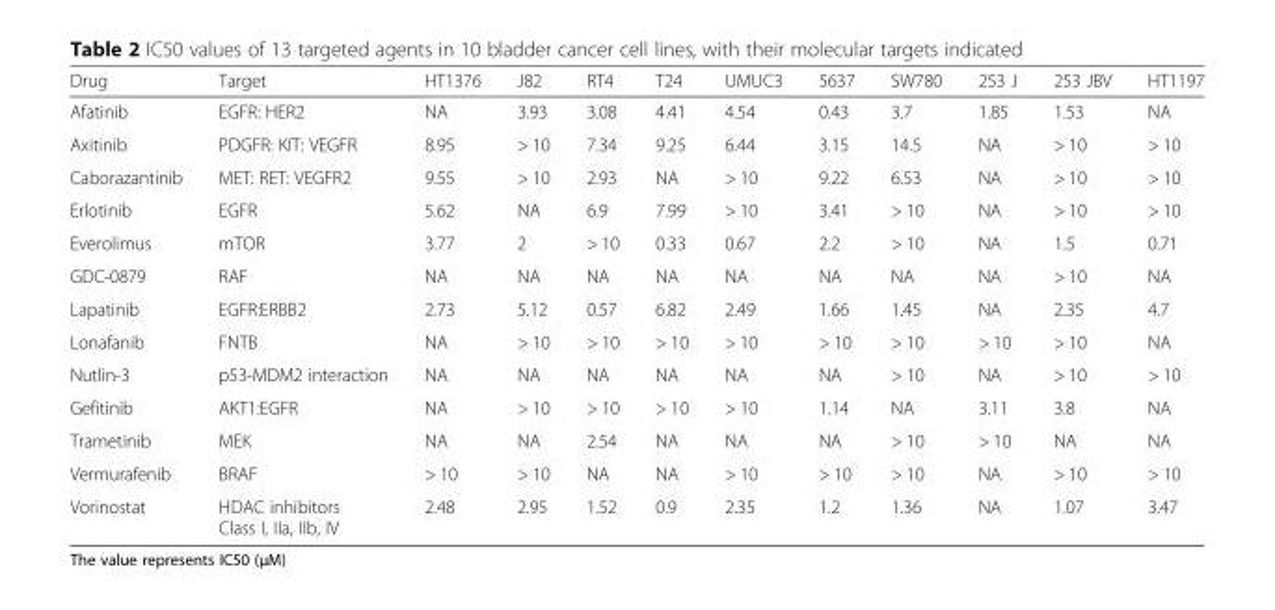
<table><thead><tr><td>Drug</td><td>Target</td><td>HT1376</td><td>J82</td><td>RT4</td><td>T24</td><td>UMUC3</td><td>5637</td><td>SW780</td><td>253 J</td><td>253 JBV</td><td>HT1197</td></tr></thead><tbody><tr><td>Afatinib</td><td>EGFR: HER2</td><td>NA</td><td>3.93</td><td>3.08</td><td>4.41</td><td>4.54</td><td>0.43</td><td>3.7</td><td>1.85</td><td>1.53</td><td>NA</td></tr><tr><td>Axitinib</td><td>PDGFR: KIT: VEGFR</td><td>8.95</td><td>&gt; 10</td><td>7.34</td><td>9.25</td><td>6.44</td><td>3.15</td><td>14.5</td><td>NA</td><td>&gt; 10</td><td>&gt; 10</td></tr><tr><td>Caborazantinib</td><td>MET: RET: VEGFR2</td><td>9.55</td><td>&gt; 10</td><td>2.93</td><td>NA</td><td>&gt; 10</td><td>9.22</td><td>6.53</td><td>NA</td><td>&gt; 10</td><td>&gt; 10</td></tr><tr><td>Erlotinib</td><td>EGFR</td><td>5.62</td><td>NA</td><td>6.9</td><td>7.99</td><td>&gt; 10</td><td>3.41</td><td>&gt; 10</td><td>NA</td><td>&gt; 10</td><td>&gt; 10</td></tr><tr><td>Everolimus</td><td>mTOR</td><td>3.77</td><td>2</td><td>&gt; 10</td><td>0.33</td><td>0.67</td><td>2.2</td><td>&gt; 10</td><td>NA</td><td>1.5</td><td>0.71</td></tr><tr><td>GDC-0879</td><td>RAF</td><td>NA</td><td>NA</td><td>NA</td><td>NA</td><td>NA</td><td>NA</td><td>NA</td><td>NA</td><td>&gt; 10</td><td>NA</td></tr><tr><td>Lapatinib</td><td>EGFR:ERBB2</td><td>2.73</td><td>5.12</td><td>0.57</td><td>6.82</td><td>2.49</td><td>1.66</td><td>1.45</td><td>NA</td><td>2.35</td><td>4.7</td></tr><tr><td>Lonafanib</td><td>FNTB</td><td>NA</td><td>&gt; 10</td><td>&gt; 10</td><td>&gt; 10</td><td>&gt; 10</td><td>&gt; 10</td><td>&gt; 10</td><td>&gt; 10</td><td>&gt; 10</td><td>NA</td></tr><tr><td>Nutlin-3</td><td>p53-MDM2 interaction</td><td>NA</td><td>NA</td><td>NA</td><td>NA</td><td>NA</td><td>NA</td><td>&gt; 10</td><td>NA</td><td>&gt; 10</td><td>&gt; 10</td></tr><tr><td>Gefitinib</td><td>AKT1:EGFR</td><td>NA</td><td>&gt; 10</td><td>&gt; 10</td><td>&gt; 10</td><td>&gt; 10</td><td>1.14</td><td>NA</td><td>3.11</td><td>3.8</td><td>NA</td></tr><tr><td>Trametinib</td><td>MEK</td><td>NA</td><td>NA</td><td>2.54</td><td>NA</td><td>NA</td><td>NA</td><td>&gt; 10</td><td>&gt; 10</td><td>NA</td><td>NA</td></tr><tr><td>Vermurafenib</td><td>BRAF</td><td>&gt; 10</td><td>&gt; 10</td><td>NA</td><td>NA</td><td>&gt; 10</td><td>&gt; 10</td><td>&gt; 10</td><td>NA</td><td>&gt; 10</td><td>&gt; 10</td></tr><tr><td>Vorinostat</td><td>HDAC inhibitors Class I, IIa, IIb, IV</td><td>2.48</td><td>2.95</td><td>1.52</td><td>0.9</td><td>2.35</td><td>1.2</td><td>1.36</td><td>NA</td><td>1.07</td><td>3.47</td></tr></tbody></table>